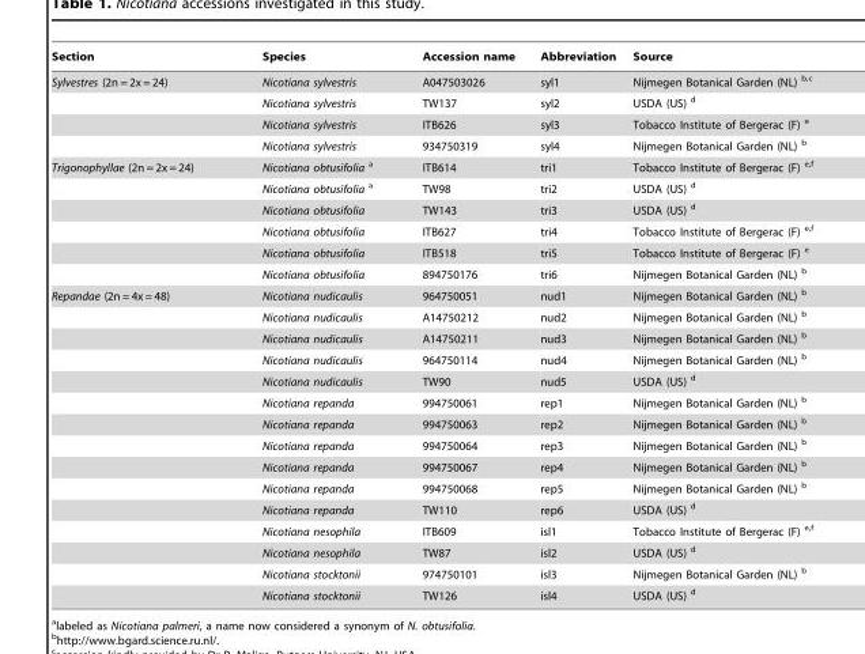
<table><thead><tr><td>Section</td><td>Species</td><td>Accession name</td><td>Abbreviation</td><td>Source</td></tr></thead><tbody><tr><td rowspan="4">Sylvestres (2n = 2x = 24)</td><td>Nicotiana sylvestris</td><td>A047503026</td><td>syl1</td><td>Nijmegen Botanical Garden (NL) b,c</td></tr><tr><td>Nicotiana sylvestris</td><td>TW137</td><td>syl2</td><td>USDA (US) d</td></tr><tr><td>Nicotiana sylvestris</td><td>ITB626</td><td>syl3</td><td>Tobacco Institute of Bergerac (F) e</td></tr><tr><td>Nicotiana sylvestris</td><td>934750319</td><td>syl4</td><td>Nijmegen Botanical Garden (NL) b</td></tr><tr><td rowspan="6">Trigonophyllae (2n = 2x = 24)</td><td>Nicotiana obtusifolia a</td><td>ITB614</td><td>tri1</td><td>Tobacco Institute of Bergerac (F) e,f</td></tr><tr><td>Nicotiana obtusifolia a</td><td>TW98</td><td>tri2</td><td>USDA (US) d</td></tr><tr><td>Nicotiana obtusifolia</td><td>TW143</td><td>tri3</td><td>USDA (US) d</td></tr><tr><td>Nicotiana obtusifolia</td><td>ITB627</td><td>tri4</td><td>Tobacco Institute of Bergerac (F) e,f</td></tr><tr><td>Nicotiana obtusifolia</td><td>ITB518</td><td>tri5</td><td>Tobacco Institute of Bergerac (F) e</td></tr><tr><td>Nicotiana obtusifolia</td><td>894750176</td><td>tri6</td><td>Nijmegen Botanical Garden (NL) b</td></tr><tr><td rowspan="15">Repandae (2n = 4x = 48)</td><td>Nicotiana nudicaulis</td><td>964750051</td><td>nud1</td><td>Nijmegen Botanical Garden (NL) b</td></tr><tr><td>Nicotiana nudicaulis</td><td>A14750212</td><td>nud2</td><td>Nijmegen Botanical Garden (NL) b</td></tr><tr><td>Nicotiana nudicaulis</td><td>A14750211</td><td>nud3</td><td>Nijmegen Botanical Garden (NL) b</td></tr><tr><td>Nicotiana nudicaulis</td><td>964750114</td><td>nud4</td><td>Nijmegen Botanical Garden (NL) b</td></tr><tr><td>Nicotiana nudicaulis</td><td>TW90</td><td>nud5</td><td>USDA (US) d</td></tr><tr><td>Nicotiana repanda</td><td>994750061</td><td>rep1</td><td>Nijmegen Botanical Garden (NL) b</td></tr><tr><td>Nicotiana repanda</td><td>994750063</td><td>rep2</td><td>Nijmegen Botanical Garden (NL) b</td></tr><tr><td>Nicotiana repanda</td><td>994750064</td><td>rep3</td><td>Nijmegen Botanical Garden (NL) b</td></tr><tr><td>Nicotiana repanda</td><td>994750067</td><td>rep4</td><td>Nijmegen Botanical Garden (NL) b</td></tr><tr><td>Nicotiana repanda</td><td>994750068</td><td>rep5</td><td>Nijmegen Botanical Garden (NL) b</td></tr><tr><td>Nicotiana repanda</td><td>TW110</td><td>rep6</td><td>USDA (US) d</td></tr><tr><td>Nicotiana nesophila</td><td>ITB609</td><td>isl1</td><td>Tobacco Institute of Bergerac (F) e,f</td></tr><tr><td>Nicotiana nesophila</td><td>TW87</td><td>isl2</td><td>USDA (US) d</td></tr><tr><td>Nicotiana stocktonii</td><td>974750101</td><td>isl3</td><td>Nijmegen Botanical Garden (NL) b</td></tr><tr><td>Nicotiana stocktonii</td><td>TW126</td><td>isl4</td><td>USDA (US) d</td></tr></tbody></table>